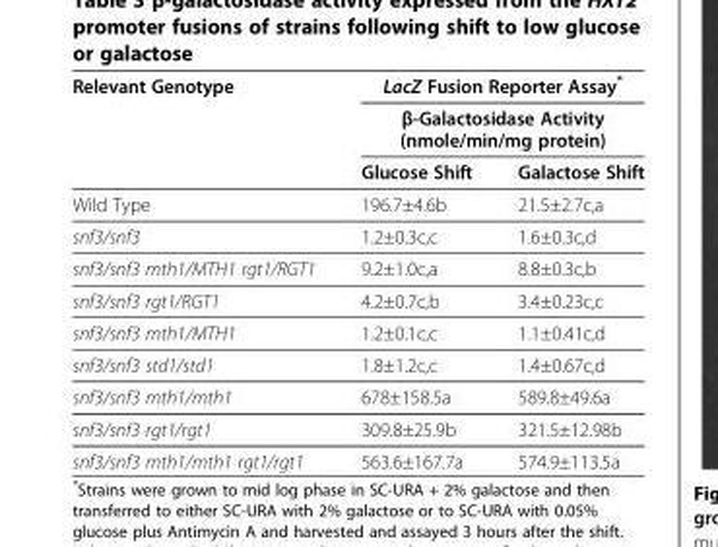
<table><thead><tr><td rowspan="3">Relevant Genotype</td><td rowspan="2" colspan="2">LacZ Fusion Reporter Assay* β-Galactosidase Activity (nmole/min/mg protein)</td></tr><tr></tr><tr><td>Glucose Shift</td><td>Galactose Shift</td></tr></thead><tbody><tr><td>Wild Type</td><td>196.7±4.6b</td><td>21.5±2.7c,a</td></tr><tr><td>snf3/snf3</td><td>1.2±0.3c,c</td><td>1.6±0.3c,d</td></tr><tr><td>snf3/snf3 mth1/MTH1 rgt1/RGT1</td><td>9.2±1.0c,a</td><td>8.8±0.3c,b</td></tr><tr><td>snf3/snf3 rgt1/RGT1</td><td>4.2±0.7c,b</td><td>3.4±0.23c,c</td></tr><tr><td>snf3/snf3 mth1/MTH1</td><td>1.2±0.1c,c</td><td>1.1±0.41c,d</td></tr><tr><td>snf3/snf3 std1/std1</td><td>1.8±1.2c,c</td><td>1.4±0.67c,d</td></tr><tr><td>snf3/snf3 mth1/mth1</td><td>678±158.5a</td><td>589.8±49.6a</td></tr><tr><td>snf3/snf3 rgt1/rgt1</td><td>309.8±25.9b</td><td>321.5±12.98b</td></tr><tr><td>snf3/snf3 mth1/mth1 rgt1/rgt1</td><td>563.6±167.7a</td><td>574.9±113.5a</td></tr></tbody></table>